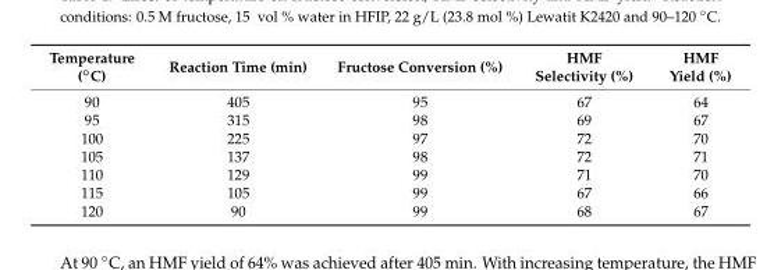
<table><thead><tr><td>Temperature (◦C)</td><td>Reaction Time (min)</td><td>Fructose Conversion (%)</td><td>HMF Selectivity (%)</td><td>HMF Yield (%)</td></tr></thead><tbody><tr><td>90</td><td>405</td><td>95</td><td>67</td><td>64</td></tr><tr><td>95</td><td>315</td><td>98</td><td>69</td><td>67</td></tr><tr><td>100</td><td>225</td><td>97</td><td>72</td><td>70</td></tr><tr><td>105</td><td>137</td><td>98</td><td>72</td><td>71</td></tr><tr><td>110</td><td>129</td><td>99</td><td>71</td><td>70</td></tr><tr><td>115</td><td>105</td><td>99</td><td>67</td><td>66</td></tr><tr><td>120</td><td>90</td><td>99</td><td>68</td><td>67</td></tr></tbody></table>